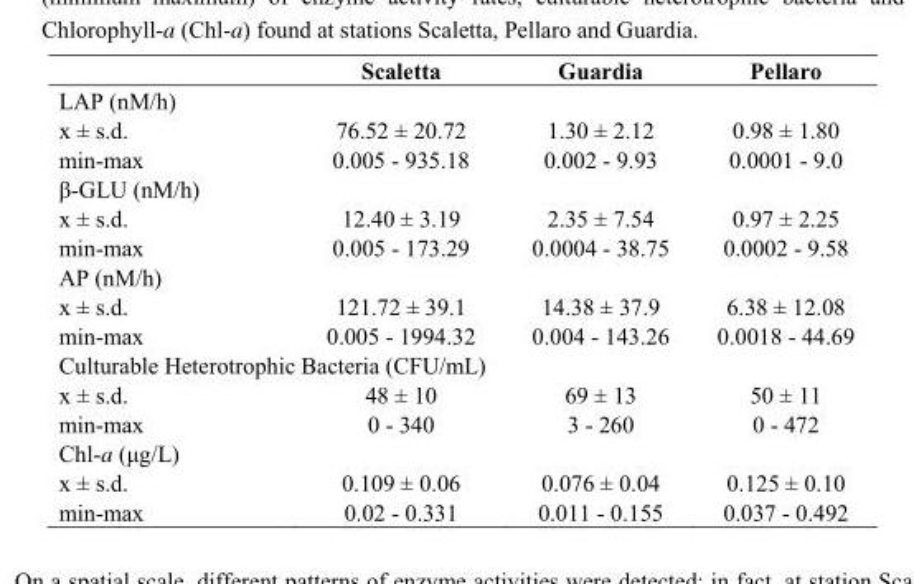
<table><thead><tr><td></td><td>Scaletta</td><td>Guardia</td><td>Pellaro</td></tr></thead><tbody><tr><td colspan="4">LAP (nM/h)</td></tr><tr><td>x ± s.d.</td><td>76.52 ± 20.72</td><td>1.30 ± 2.12</td><td>0.98 ± 1.80</td></tr><tr><td>min-max</td><td>0.005 - 935.18</td><td>0.002 - 9.93</td><td>0.0001 - 9.0</td></tr><tr><td colspan="4">β-GLU (nM/h)</td></tr><tr><td>x ± s.d.</td><td>12.40 ± 3.19</td><td>2.35 ± 7.54</td><td>0.97 ± 2.25</td></tr><tr><td>min-max</td><td>0.005 - 173.29</td><td>0.0004 - 38.75</td><td>0.0002 - 9.58</td></tr><tr><td colspan="4">AP (nM/h)</td></tr><tr><td>x ± s.d.</td><td>121.72 ± 39.1</td><td>14.38 ± 37.9</td><td>6.38 ± 12.08</td></tr><tr><td>min-max</td><td>0.005 - 1994.32</td><td>0.004 - 143.26</td><td>0.0018 - 44.69</td></tr><tr><td colspan="4">Culturable Heterotrophic Bacteria (CFU/mL)</td></tr><tr><td>x ± s.d.</td><td>48 ± 10</td><td>69 ± 13</td><td>50 ± 11</td></tr><tr><td>min-max</td><td>0 - 340</td><td>3 - 260</td><td>0 - 472</td></tr><tr><td colspan="4">Chl-a (μg/L)</td></tr><tr><td>x ± s.d.</td><td>0.109 ± 0.06</td><td>0.076 ± 0.04</td><td>0.125 ± 0.10</td></tr><tr><td>min-max</td><td>0.02 - 0.331</td><td>0.011 - 0.155</td><td>0.037 - 0.492</td></tr></tbody></table>